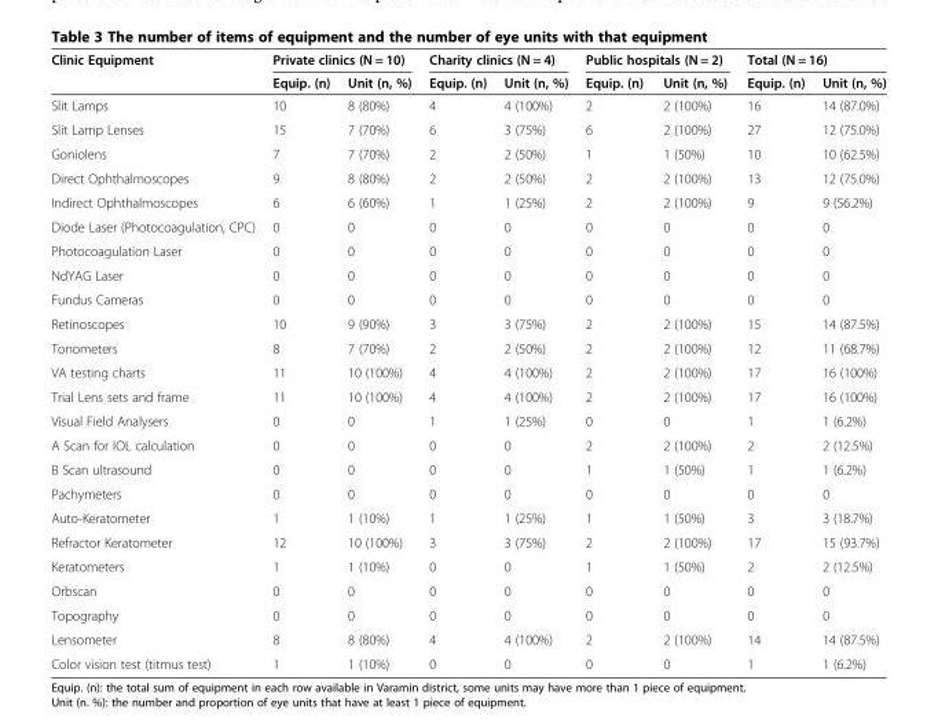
<table><thead><tr><td rowspan="2">Clinic Equipment</td><td colspan="2">Private clinics (N = 10)</td><td colspan="2">Charity clinics (N = 4)</td><td colspan="2">Public hospitals (N = 2)</td><td colspan="2">Total (N = 16)</td></tr><tr><td>Equip. (n)</td><td>Unit (n, %)</td><td>Equip. (n)</td><td>Unit (n, %)</td><td>Equip. (n)</td><td>Unit (n, %)</td><td>Equip. (n)</td><td>Unit (n, %)</td></tr></thead><tbody><tr><td>Slit Lamps</td><td>10</td><td>8 (80%)</td><td>4</td><td>4 (100%)</td><td>2</td><td>2 (100%)</td><td>16</td><td>14 (87.0%)</td></tr><tr><td>Slit Lamp Lenses</td><td>15</td><td>7 (70%)</td><td>6</td><td>3 (75%)</td><td>6</td><td>2 (100%)</td><td>27</td><td>12 (75.0%)</td></tr><tr><td>Goniolens</td><td>7</td><td>7 (70%)</td><td>2</td><td>2 (50%)</td><td>1</td><td>1 (50%)</td><td>10</td><td>10 (62.5%)</td></tr><tr><td>Direct Ophthalmoscopes</td><td>9</td><td>8 (80%)</td><td>2</td><td>2 (50%)</td><td>2</td><td>2 (100%)</td><td>13</td><td>12 (75.0%)</td></tr><tr><td>Indirect Ophthalmoscopes</td><td>6</td><td>6 (60%)</td><td>1</td><td>1 (25%)</td><td>2</td><td>2 (100%)</td><td>9</td><td>9 (56.2%)</td></tr><tr><td>Diode Laser (Photocoagulation, CPC)</td><td>0</td><td>0</td><td>0</td><td>0</td><td>0</td><td>0</td><td>0</td><td>0</td></tr><tr><td>Photocoagulation Laser</td><td>0</td><td>0</td><td>0</td><td>0</td><td>0</td><td>0</td><td>0</td><td>0</td></tr><tr><td>NdYAG Laser</td><td>0</td><td>0</td><td>0</td><td>0</td><td>0</td><td>0</td><td>0</td><td>0</td></tr><tr><td>Fundus Cameras</td><td>0</td><td>0</td><td>0</td><td>0</td><td>0</td><td>0</td><td>0</td><td>0</td></tr><tr><td>Retinoscopes</td><td>10</td><td>9 (90%)</td><td>3</td><td>3 (75%)</td><td>2</td><td>2 (100%)</td><td>15</td><td>14 (87.5%)</td></tr><tr><td>Tonometers</td><td>8</td><td>7 (70%)</td><td>2</td><td>2 (50%)</td><td>2</td><td>2 (100%)</td><td>12</td><td>11 (68.7%)</td></tr><tr><td>VA testing charts</td><td>11</td><td>10 (100%)</td><td>4</td><td>4 (100%)</td><td>2</td><td>2 (100%)</td><td>17</td><td>16 (100%)</td></tr><tr><td>Trial Lens sets and frame</td><td>11</td><td>10 (100%)</td><td>4</td><td>4 (100%)</td><td>2</td><td>2 (100%)</td><td>17</td><td>16 (100%)</td></tr><tr><td>Visual Field Analysers</td><td>0</td><td>0</td><td>1</td><td>1 (25%)</td><td>0</td><td>0</td><td>1</td><td>1 (6.2%)</td></tr><tr><td>A Scan for IOL calculation</td><td>0</td><td>0</td><td>0</td><td>0</td><td>2</td><td>2 (100%)</td><td>2</td><td>2 (12.5%)</td></tr><tr><td>B Scan ultrasound</td><td>0</td><td>0</td><td>0</td><td>0</td><td>1</td><td>1 (50%)</td><td>1</td><td>1 (6.2%)</td></tr><tr><td>Pachymeters</td><td>0</td><td>0</td><td>0</td><td>0</td><td>0</td><td>0</td><td>0</td><td>0</td></tr><tr><td>Auto-Keratometer</td><td>1</td><td>1 (10%)</td><td>1</td><td>1 (25%)</td><td>1</td><td>1 (50%)</td><td>3</td><td>3 (18.7%)</td></tr><tr><td>Refractor Keratometer</td><td>12</td><td>10 (100%)</td><td>3</td><td>3 (75%)</td><td>2</td><td>2 (100%)</td><td>17</td><td>15 (93.7%)</td></tr><tr><td>Keratometers</td><td>1</td><td>1 (10%)</td><td>0</td><td>0</td><td>1</td><td>1 (50%)</td><td>2</td><td>2 (12.5%)</td></tr><tr><td>Orbscan</td><td>0</td><td>0</td><td>0</td><td>0</td><td>0</td><td>0</td><td>0</td><td>0</td></tr><tr><td>Topography</td><td>0</td><td>0</td><td>0</td><td>0</td><td>0</td><td>0</td><td>0</td><td>0</td></tr><tr><td>Lensometer</td><td>8</td><td>8 (80%)</td><td>4</td><td>4 (100%)</td><td>2</td><td>2 (100%)</td><td>14</td><td>14 (87.5%)</td></tr><tr><td>Color vision test (titmus test)</td><td>1</td><td>1 (10%)</td><td>0</td><td>0</td><td>0</td><td>0</td><td>1</td><td>1 (6.2%)</td></tr></tbody></table>